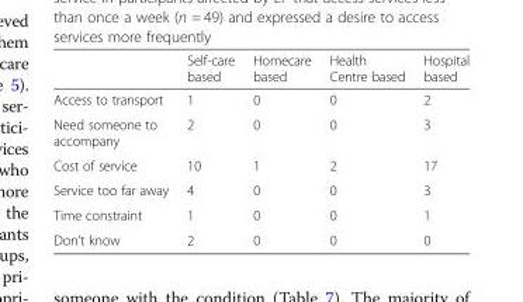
<table><thead><tr><td></td><td>Self-care based</td><td>Homecare based</td><td>Health Centre based</td><td>Hospital based</td></tr></thead><tbody><tr><td>Access to transport</td><td>1</td><td>0</td><td>0</td><td>2</td></tr><tr><td>Need someone to accompany</td><td>2</td><td>0</td><td>0</td><td>3</td></tr><tr><td>Cost of service</td><td>10</td><td>1</td><td>2</td><td>17</td></tr><tr><td>Service too far away</td><td>4</td><td>0</td><td>0</td><td>3</td></tr><tr><td>Time constraint</td><td>1</td><td>0</td><td>0</td><td>1</td></tr><tr><td>Don’t know</td><td>2</td><td>0</td><td>0</td><td>0</td></tr></tbody></table>